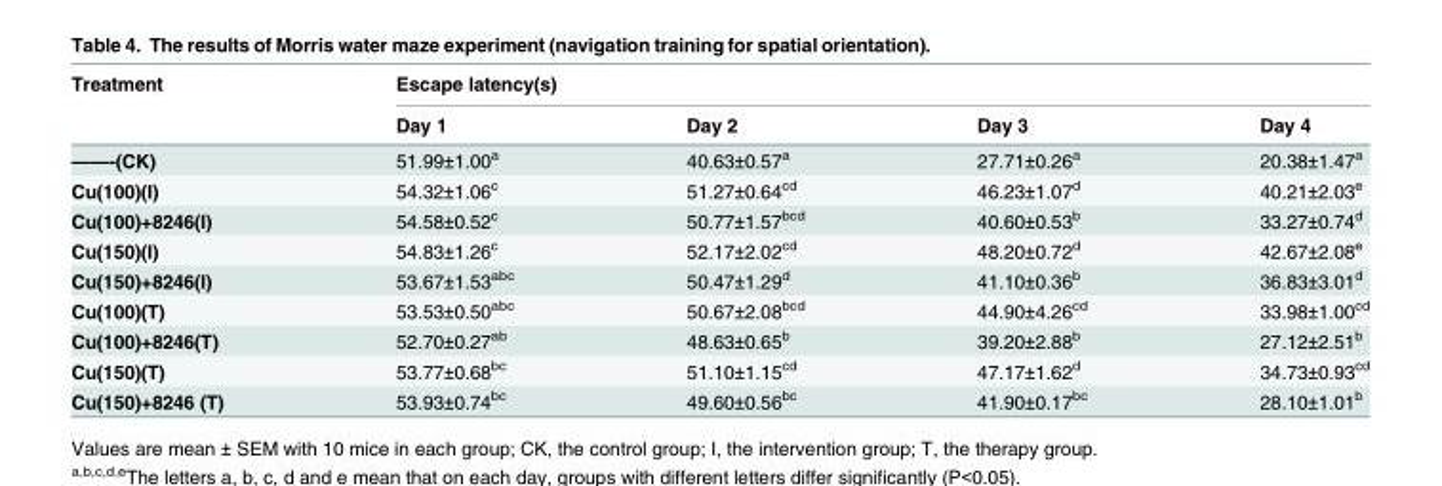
<table><thead><tr><td rowspan="2">Treatment</td><td colspan="4">Escape latency(s)</td></tr><tr><td>Day 1</td><td>Day 2</td><td>Day 3</td><td>Day 4</td></tr></thead><tbody><tr><td>——-(CK)</td><td>51.99±1.00<sup>a</sup></td><td>40.63±0.57<sup>a</sup></td><td>27.71±0.26<sup>a</sup></td><td>20.38±1.47<sup>a</sup></td></tr><tr><td>Cu(100)(I)</td><td>54.32±1.06<sup>c</sup></td><td>51.27±0.64<sup>cd</sup></td><td>46.23±1.07<sup>d</sup></td><td>40.21±2.03<sup>e</sup></td></tr><tr><td>Cu(100)+8246(I)</td><td>54.58±0.52<sup>c</sup></td><td>50.77±1.57<sup>bcd</sup></td><td>40.60±0.53<sup>b</sup></td><td>33.27±0.74<sup>d</sup></td></tr><tr><td>Cu(150)(I)</td><td>54.83±1.26<sup>c</sup></td><td>52.17±2.02<sup>cd</sup></td><td>48.20±0.72<sup>d</sup></td><td>42.67±2.08<sup>e</sup></td></tr><tr><td>Cu(150)+8246(I)</td><td>53.67±1.53<sup>abc</sup></td><td>50.47±1.29<sup>d</sup></td><td>41.10±0.36<sup>b</sup></td><td>36.83±3.01<sup>d</sup></td></tr><tr><td>Cu(100)(T)</td><td>53.53±0.50<sup>abc</sup></td><td>50.67±2.08<sup>bcd</sup></td><td>44.90±4.26<sup>cd</sup></td><td>33.98±1.00<sup>cd</sup></td></tr><tr><td>Cu(100)+8246(T)</td><td>52.70±0.27<sup>ab</sup></td><td>48.63±0.65<sup>b</sup></td><td>39.20±2.88<sup>b</sup></td><td>27.12±2.51<sup>b</sup></td></tr><tr><td>Cu(150)(T)</td><td>53.77±0.68<sup>bc</sup></td><td>51.10±1.15<sup>cd</sup></td><td>47.17±1.62<sup>d</sup></td><td>34.73±0.93<sup>cd</sup></td></tr><tr><td>Cu(150)+8246 (T)</td><td>53.93±0.74<sup>bc</sup></td><td>49.60±0.56<sup>bc</sup></td><td>41.90±0.17<sup>bc</sup></td><td>28.10±1.01<sup>b</sup></td></tr></tbody></table>